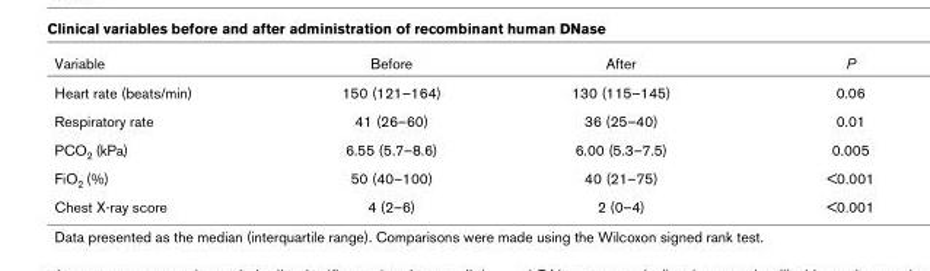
<table><thead><tr><td>Variable</td><td>Before</td><td>After</td><td>P</td></tr></thead><tbody><tr><td>Heart rate (beats/min)</td><td>150 (121–164)</td><td>130 (115–145)</td><td>0.06</td></tr><tr><td>Respiratory rate</td><td>41 (26–60)</td><td>36 (25–40)</td><td>0.01</td></tr><tr><td>PCO2 (kPa)</td><td>6.55 (5.7–8.6)</td><td>6.00 (5.3–7.5)</td><td>0.005</td></tr><tr><td>FiO2 (%)</td><td>50 (40–100)</td><td>40 (21–75)</td><td>&lt;0.001</td></tr><tr><td>Chest X-ray score</td><td>4 (2–6)</td><td>2 (0–4)</td><td>&lt;0.001</td></tr></tbody></table>